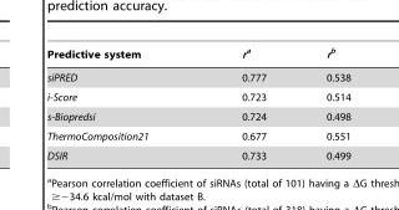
<table><thead><tr><td>Predictive system</td><td>ra</td><td>rb</td></tr></thead><tbody><tr><td>siPRED</td><td>0.777</td><td>0.538</td></tr><tr><td>i-Score</td><td>0.723</td><td>0.514</td></tr><tr><td>s-Biopredsi</td><td>0.724</td><td>0.498</td></tr><tr><td>ThermoComposition21</td><td>0.677</td><td>0.551</td></tr><tr><td>DSIR</td><td>0.733</td><td>0.499</td></tr></tbody></table>